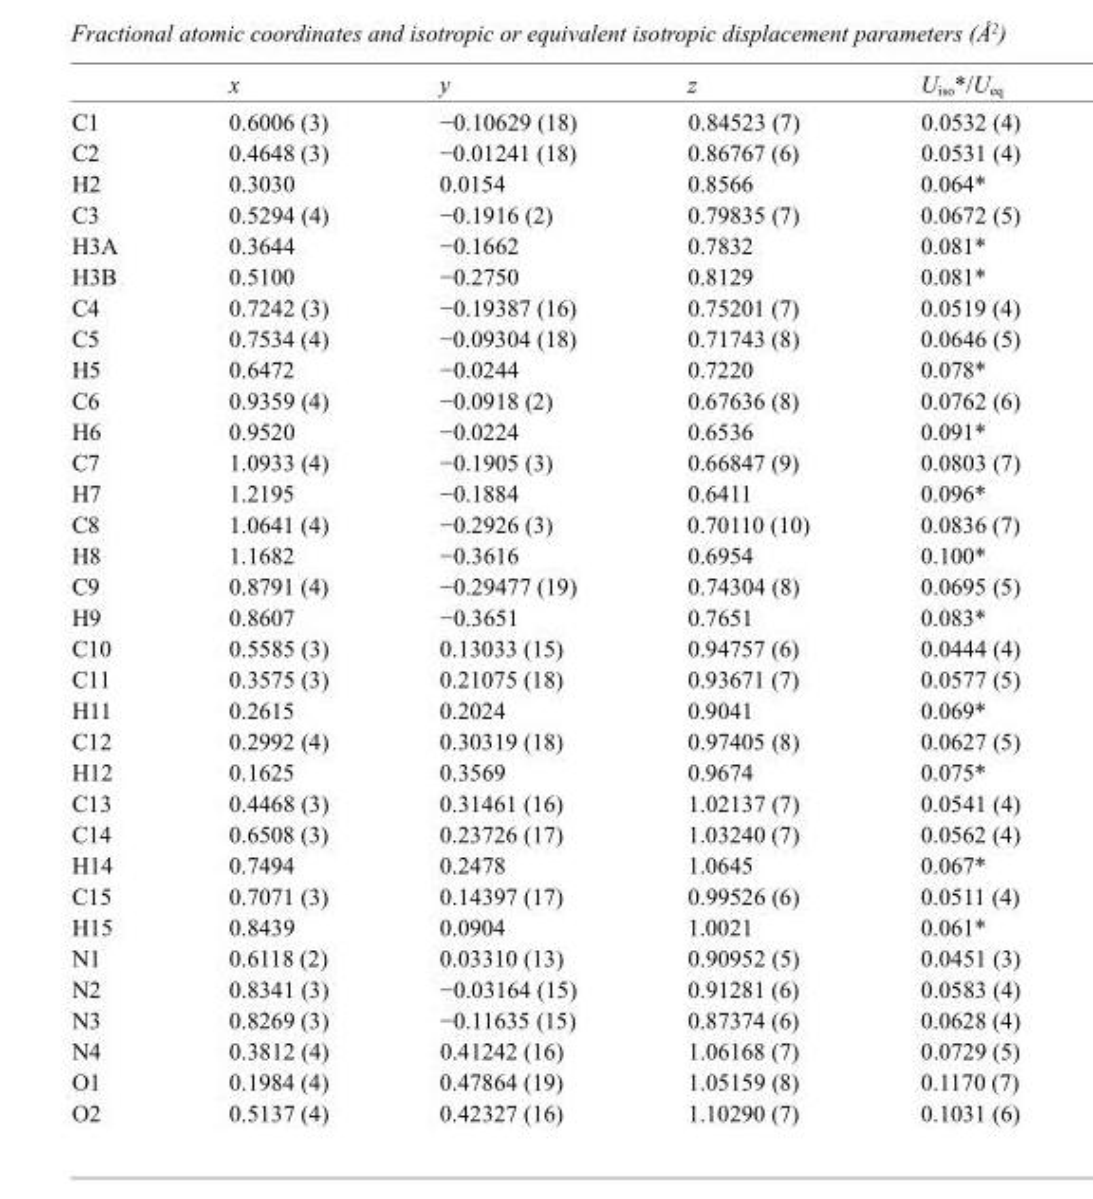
<table><thead><tr><td></td><td>x</td><td>y</td><td>z</td><td>U<sub>iso</sub>*/U<sub>eq</sub></td></tr></thead><tbody><tr><td>C1</td><td>0.6006 (3)</td><td>−0.10629 (18)</td><td>0.84523 (7)</td><td>0.0532 (4)</td></tr><tr><td>C2</td><td>0.4648 (3)</td><td>−0.01241 (18)</td><td>0.86767 (6)</td><td>0.0531 (4)</td></tr><tr><td>H2</td><td>0.3030</td><td>0.0154</td><td>0.8566</td><td>0.064*</td></tr><tr><td>C3</td><td>0.5294 (4)</td><td>−0.1916 (2)</td><td>0.79835 (7)</td><td>0.0672 (5)</td></tr><tr><td>H3A</td><td>0.3644</td><td>−0.1662</td><td>0.7832</td><td>0.081*</td></tr><tr><td>H3B</td><td>0.5100</td><td>−0.2750</td><td>0.8129</td><td>0.081*</td></tr><tr><td>C4</td><td>0.7242 (3)</td><td>−0.19387 (16)</td><td>0.75201 (7)</td><td>0.0519 (4)</td></tr><tr><td>C5</td><td>0.7534 (4)</td><td>−0.09304 (18)</td><td>0.71743 (8)</td><td>0.0646 (5)</td></tr><tr><td>H5</td><td>0.6472</td><td>−0.0244</td><td>0.7220</td><td>0.078*</td></tr><tr><td>C6</td><td>0.9359 (4)</td><td>−0.0918 (2)</td><td>0.67636 (8)</td><td>0.0762 (6)</td></tr><tr><td>H6</td><td>0.9520</td><td>−0.0224</td><td>0.6536</td><td>0.091*</td></tr><tr><td>C7</td><td>1.0933 (4)</td><td>−0.1905 (3)</td><td>0.66847 (9)</td><td>0.0803 (7)</td></tr><tr><td>H7</td><td>1.2195</td><td>−0.1884</td><td>0.6411</td><td>0.096*</td></tr><tr><td>C8</td><td>1.0641 (4)</td><td>−0.2926 (3)</td><td>0.70110 (10)</td><td>0.0836 (7)</td></tr><tr><td>H8</td><td>1.1682</td><td>−0.3616</td><td>0.6954</td><td>0.100*</td></tr><tr><td>C9</td><td>0.8791 (4)</td><td>−0.29477 (19)</td><td>0.74304 (8)</td><td>0.0695 (5)</td></tr><tr><td>H9</td><td>0.8607</td><td>−0.3651</td><td>0.7651</td><td>0.083*</td></tr><tr><td>C10</td><td>0.5585 (3)</td><td>0.13033 (15)</td><td>0.94757 (6)</td><td>0.0444 (4)</td></tr><tr><td>C11</td><td>0.3575 (3)</td><td>0.21075 (18)</td><td>0.93671 (7)</td><td>0.0577 (5)</td></tr><tr><td>H11</td><td>0.2615</td><td>0.2024</td><td>0.9041</td><td>0.069*</td></tr><tr><td>C12</td><td>0.2992 (4)</td><td>0.30319 (18)</td><td>0.97405 (8)</td><td>0.0627 (5)</td></tr><tr><td>H12</td><td>0.1625</td><td>0.3569</td><td>0.9674</td><td>0.075*</td></tr><tr><td>C13</td><td>0.4468 (3)</td><td>0.31461 (16)</td><td>1.02137 (7)</td><td>0.0541 (4)</td></tr><tr><td>C14</td><td>0.6508 (3)</td><td>0.23726 (17)</td><td>1.03240 (7)</td><td>0.0562 (4)</td></tr><tr><td>H14</td><td>0.7494</td><td>0.2478</td><td>1.0645</td><td>0.067*</td></tr><tr><td>C15</td><td>0.7071 (3)</td><td>0.14397 (17)</td><td>0.99526 (6)</td><td>0.0511 (4)</td></tr><tr><td>H15</td><td>0.8439</td><td>0.0904</td><td>1.0021</td><td>0.061*</td></tr><tr><td>N1</td><td>0.6118 (2)</td><td>0.03310 (13)</td><td>0.90952 (5)</td><td>0.0451 (3)</td></tr><tr><td>N2</td><td>0.8341 (3)</td><td>−0.03164 (15)</td><td>0.91281 (6)</td><td>0.0583 (4)</td></tr><tr><td>N3</td><td>0.8269 (3)</td><td>−0.11635 (15)</td><td>0.87374 (6)</td><td>0.0628 (4)</td></tr><tr><td>N4</td><td>0.3812 (4)</td><td>0.41242 (16)</td><td>1.06168 (7)</td><td>0.0729 (5)</td></tr><tr><td>O1</td><td>0.1984 (4)</td><td>0.47864 (19)</td><td>1.05159 (8)</td><td>0.1170 (7)</td></tr><tr><td>O2</td><td>0.5137 (4)</td><td>0.42327 (16)</td><td>1.10290 (7)</td><td>0.1031 (6)</td></tr></tbody></table>